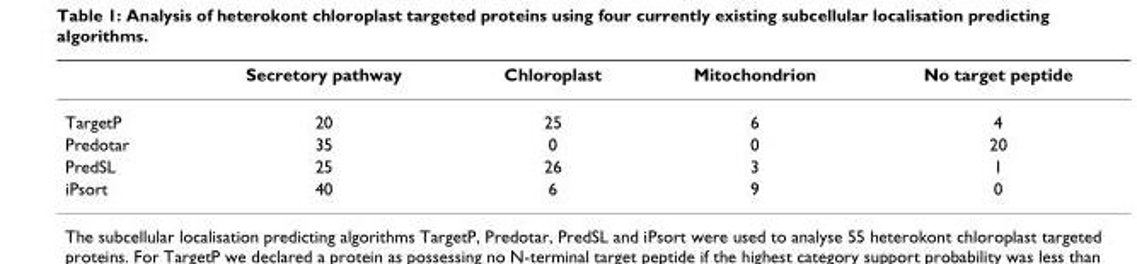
<table><thead><tr><td></td><td>Secretory pathway</td><td>Chloroplast</td><td>Mitochondrion</td><td>No target peptide</td></tr></thead><tbody><tr><td>TargetP</td><td>20</td><td>25</td><td>6</td><td>4</td></tr><tr><td>Predotar</td><td>35</td><td>0</td><td>0</td><td>20</td></tr><tr><td>PredSL</td><td>25</td><td>26</td><td>3</td><td>1</td></tr><tr><td>iPsort</td><td>40</td><td>6</td><td>9</td><td>0</td></tr></tbody></table>